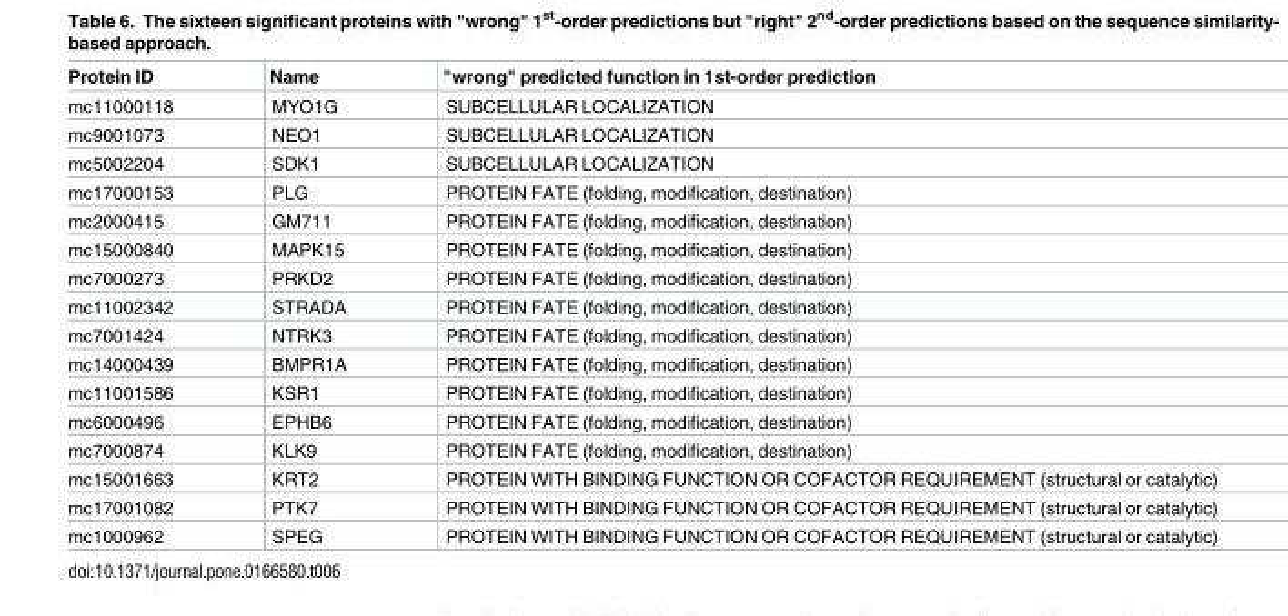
<table><thead><tr><td>Protein ID</td><td>Name</td><td>&quot;wrong&quot; predicted function in 1st-order prediction</td></tr></thead><tbody><tr><td>mc11000118</td><td>MYO1G</td><td>SUBCELLULAR LOCALIZATION</td></tr><tr><td>mc9001073</td><td>NEO1</td><td>SUBCELLULAR LOCALIZATION</td></tr><tr><td>mc5002204</td><td>SDK1</td><td>SUBCELLULAR LOCALIZATION</td></tr><tr><td>mc17000153</td><td>PLG</td><td>PROTEIN FATE (folding, modification, destination)</td></tr><tr><td>mc2000415</td><td>GM711</td><td>PROTEIN FATE (folding, modification, destination)</td></tr><tr><td>mc15000840</td><td>MAPK15</td><td>PROTEIN FATE (folding, modification, destination)</td></tr><tr><td>mc7000273</td><td>PRKD2</td><td>PROTEIN FATE (folding, modification, destination)</td></tr><tr><td>mc11002342</td><td>STRADA</td><td>PROTEIN FATE (folding, modification, destination)</td></tr><tr><td>mc7001424</td><td>NTRK3</td><td>PROTEIN FATE (folding, modification, destination)</td></tr><tr><td>mc14000439</td><td>BMPR1A</td><td>PROTEIN FATE (folding, modification, destination)</td></tr><tr><td>mc11001586</td><td>KSR1</td><td>PROTEIN FATE (folding, modification, destination)</td></tr><tr><td>mc6000496</td><td>EPHB6</td><td>PROTEIN FATE (folding, modification, destination)</td></tr><tr><td>mc7000874</td><td>KLK9</td><td>PROTEIN FATE (folding, modification, destination)</td></tr><tr><td>mc15001663</td><td>KRT2</td><td>PROTEIN WITH BINDING FUNCTION OR COFACTOR REQUIREMENT (structural or catalytic)</td></tr><tr><td>mc17001082</td><td>PTK7</td><td>PROTEIN WITH BINDING FUNCTION OR COFACTOR REQUIREMENT (structural or catalytic)</td></tr><tr><td>mc1000962</td><td>SPEG</td><td>PROTEIN WITH BINDING FUNCTION OR COFACTOR REQUIREMENT (structural or catalytic)</td></tr></tbody></table>